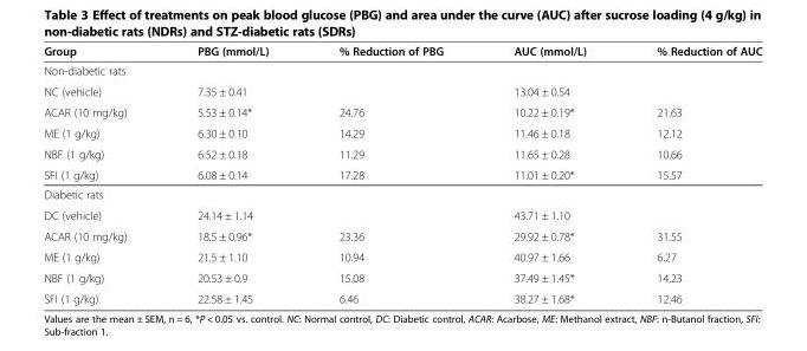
<table><thead><tr><td>Group</td><td>PBG (mmol/L)</td><td>% Reduction of PBG</td><td>AUC (mmol/L)</td><td>% Reduction of AUC</td></tr></thead><tbody><tr><td colspan="5">Non-diabetic rats</td></tr><tr><td>NC (vehicle)</td><td>7.35 ± 0.41</td><td></td><td>13.04 ± 0.54</td><td></td></tr><tr><td>ACAR (10 mg/kg)</td><td>5.53 ± 0.14*</td><td>24.76</td><td>10.22 ± 0.19*</td><td>21.63</td></tr><tr><td>ME (1 g/kg)</td><td>6.30 ± 0.10</td><td>14.29</td><td>11.46 ± 0.18</td><td>12.12</td></tr><tr><td>NBF (1 g/kg)</td><td>6.52 ± 0.18</td><td>11.29</td><td>11.65 ± 0.28</td><td>10.66</td></tr><tr><td>SFI (1 g/kg)</td><td>6.08 ± 0.14</td><td>17.28</td><td>11.01 ± 0.20*</td><td>15.57</td></tr><tr><td colspan="5">Diabetic rats</td></tr><tr><td>DC (vehicle)</td><td>24.14 ± 1.14</td><td></td><td>43.71 ± 1.10</td><td></td></tr><tr><td>ACAR (10 mg/kg)</td><td>18.5 ± 0.96*</td><td>23.36</td><td>29.92 ± 0.78*</td><td>31.55</td></tr><tr><td>ME (1 g/kg)</td><td>21.5 ± 1.10</td><td>10.94</td><td>40.97 ± 1.66</td><td>6.27</td></tr><tr><td>NBF (1 g/kg)</td><td>20.53 ± 0.9</td><td>15.08</td><td>37.49 ± 1.45*</td><td>14.23</td></tr><tr><td>SFI (1 g/kg)</td><td>22.58 ± 1.45</td><td>6.46</td><td>38.27 ± 1.68*</td><td>12.46</td></tr></tbody></table>